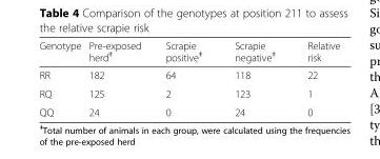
<table><thead><tr><td>Genotype</td><td>Pre-exposed herd<sup>ǂ</sup></td><td>Scrapie positive<sup>ǂ</sup></td><td>Scrapie negative<sup>ǂ</sup></td><td>Relative risk</td></tr></thead><tbody><tr><td>RR</td><td>182</td><td>64</td><td>118</td><td>22</td></tr><tr><td>RQ</td><td>125</td><td>2</td><td>123</td><td>1</td></tr><tr><td>QQ</td><td>24</td><td>0</td><td>24</td><td>0</td></tr></tbody></table>